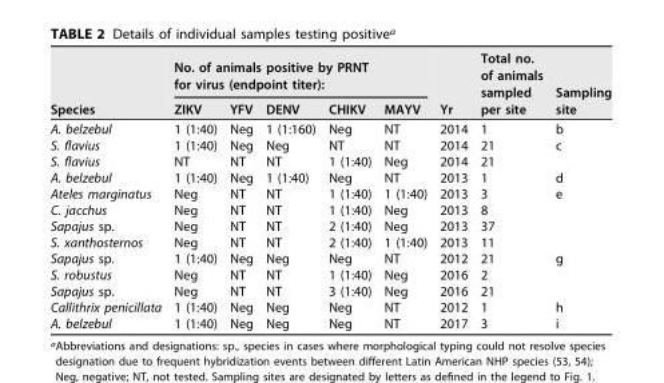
<table><thead><tr><td rowspan="2">Species</td><td colspan="5">No. of animals positive by PRNT for virus (endpoint titer):</td><td rowspan="2">Yr</td><td rowspan="2">Total no. of animals sampled per site</td><td rowspan="2">Sampling site</td></tr><tr><td>ZIKV</td><td>YFV</td><td>DENV</td><td>CHIKV</td><td>MAYV</td></tr></thead><tbody><tr><td>A. belzebul</td><td>1 (1:40)</td><td>Neg</td><td>1 (1:160)</td><td>Neg</td><td>NT</td><td>2014</td><td>1</td><td>b</td></tr><tr><td>S. flavius</td><td>1 (1:40)</td><td>Neg</td><td>Neg</td><td>NT</td><td>NT</td><td>2014</td><td>21</td><td>c</td></tr><tr><td>S. flavius</td><td>NT</td><td>NT</td><td>NT</td><td>1 (1:40)</td><td>Neg</td><td>2014</td><td>21</td><td></td></tr><tr><td>A. belzebul</td><td>1 (1:40)</td><td>Neg</td><td>1 (1:40)</td><td>Neg</td><td>NT</td><td>2013</td><td>1</td><td>d</td></tr><tr><td>Ateles marginatus</td><td>Neg</td><td>NT</td><td>NT</td><td>1 (1:40)</td><td>1 (1:40)</td><td>2013</td><td>3</td><td>e</td></tr><tr><td>C. jacchus</td><td>Neg</td><td>NT</td><td>NT</td><td>1 (1:40)</td><td>Neg</td><td>2013</td><td>8</td><td></td></tr><tr><td>Sapajus sp.</td><td>Neg</td><td>NT</td><td>NT</td><td>2 (1:40)</td><td>Neg</td><td>2013</td><td>37</td><td></td></tr><tr><td>S. xanthosternos</td><td>Neg</td><td>NT</td><td>NT</td><td>2 (1:40)</td><td>1 (1:40)</td><td>2013</td><td>11</td><td></td></tr><tr><td>Sapajus sp.</td><td>1 (1:40)</td><td>Neg</td><td>Neg</td><td>Neg</td><td>NT</td><td>2012</td><td>21</td><td>g</td></tr><tr><td>S. robustus</td><td>Neg</td><td>NT</td><td>NT</td><td>1 (1:40)</td><td>Neg</td><td>2016</td><td>2</td><td></td></tr><tr><td>Sapajus sp.</td><td>Neg</td><td>NT</td><td>NT</td><td>3 (1:40)</td><td>Neg</td><td>2016</td><td>21</td><td></td></tr><tr><td>Callithrix penicillata</td><td>1 (1:40)</td><td>Neg</td><td>Neg</td><td>Neg</td><td>NT</td><td>2012</td><td>1</td><td>h</td></tr><tr><td>A. belzebul</td><td>1 (1:40)</td><td>Neg</td><td>Neg</td><td>Neg</td><td>NT</td><td>2017</td><td>3</td><td>i</td></tr></tbody></table>